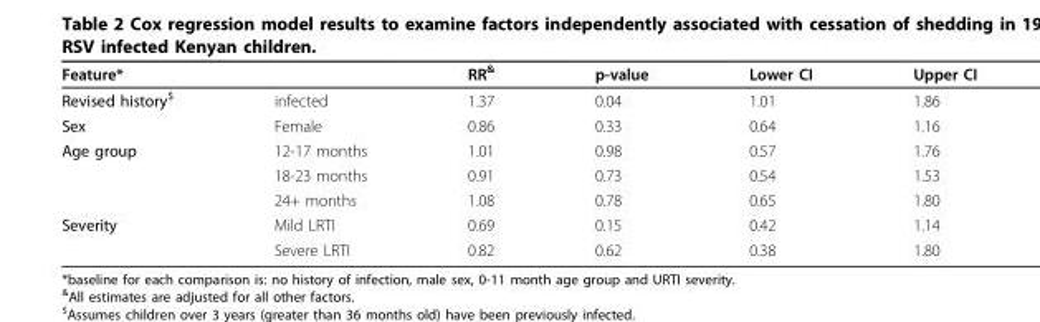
<table><thead><tr><td>Feature*</td><td></td><td>RR<sup>&amp;</sup></td><td>p-value</td><td>Lower CI</td><td>Upper CI</td></tr></thead><tbody><tr><td>Revised history<sup>$</sup></td><td>infected</td><td>1.37</td><td>0.04</td><td>1.01</td><td>1.86</td></tr><tr><td>Sex</td><td>Female</td><td>0.86</td><td>0.33</td><td>0.64</td><td>1.16</td></tr><tr><td rowspan="3">Age group</td><td>12-17 months</td><td>1.01</td><td>0.98</td><td>0.57</td><td>1.76</td></tr><tr><td>18-23 months</td><td>0.91</td><td>0.73</td><td>0.54</td><td>1.53</td></tr><tr><td>24+ months</td><td>1.08</td><td>0.78</td><td>0.65</td><td>1.80</td></tr><tr><td rowspan="2">Severity</td><td>Mild LRTI</td><td>0.69</td><td>0.15</td><td>0.42</td><td>1.14</td></tr><tr><td>Severe LRTI</td><td>0.82</td><td>0.62</td><td>0.38</td><td>1.80</td></tr></tbody></table>